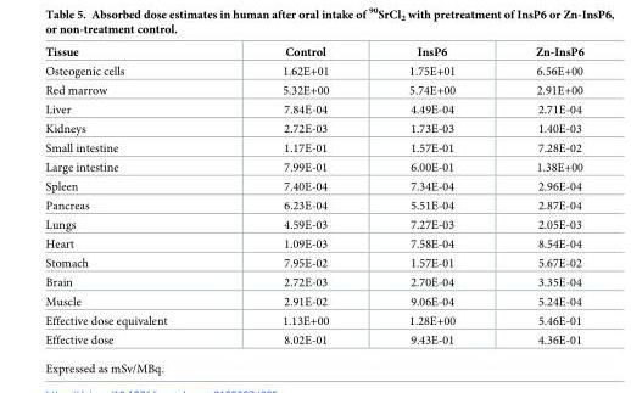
<table><thead><tr><td>Tissue</td><td>Control</td><td>InsP6</td><td>Zn-InsP6</td></tr></thead><tbody><tr><td>Osteogenic cells</td><td>1.62E+01</td><td>1.75E+01</td><td>6.56E+00</td></tr><tr><td>Red marrow</td><td>5.32E+00</td><td>5.74E+00</td><td>2.91E+00</td></tr><tr><td>Liver</td><td>7.84E-04</td><td>4.49E-04</td><td>2.71E-04</td></tr><tr><td>Kidneys</td><td>2.72E-03</td><td>1.73E-03</td><td>1.40E-03</td></tr><tr><td>Small intestine</td><td>1.17E-01</td><td>1.57E-01</td><td>7.28E-02</td></tr><tr><td>Large intestine</td><td>7.99E-01</td><td>6.00E-01</td><td>1.38E+00</td></tr><tr><td>Spleen</td><td>7.40E-04</td><td>7.34E-04</td><td>2.96E-04</td></tr><tr><td>Pancreas</td><td>6.23E-04</td><td>5.51E-04</td><td>2.87E-04</td></tr><tr><td>Lungs</td><td>4.59E-03</td><td>7.27E-03</td><td>2.05E-03</td></tr><tr><td>Heart</td><td>1.09E-03</td><td>7.58E-04</td><td>8.54E-04</td></tr><tr><td>Stomach</td><td>7.95E-02</td><td>1.57E-01</td><td>5.67E-02</td></tr><tr><td>Brain</td><td>2.72E-03</td><td>2.70E-04</td><td>3.35E-04</td></tr><tr><td>Muscle</td><td>2.91E-02</td><td>9.06E-04</td><td>5.24E-04</td></tr><tr><td>Effective dose equivalent</td><td>1.13E+00</td><td>1.28E+00</td><td>5.46E-01</td></tr><tr><td>Effective dose</td><td>8.02E-01</td><td>9.43E-01</td><td>4.36E-01</td></tr></tbody></table>